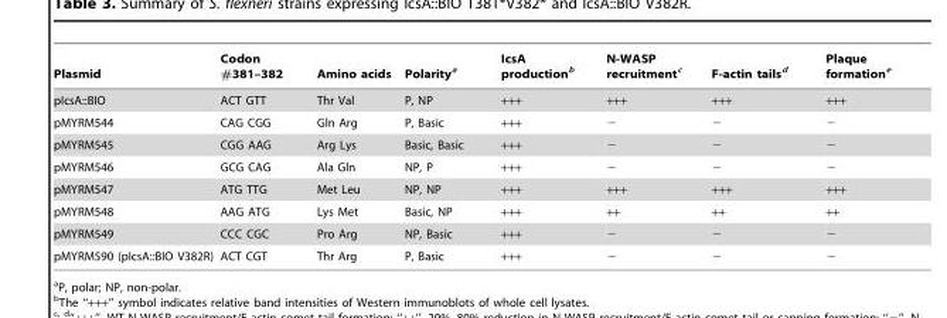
<table><thead><tr><td>Plasmid</td><td>Codon #381–382</td><td>Amino acids</td><td>Polarity<sup>a</sup></td><td>IcsA production<sup>b</sup></td><td>N-WASP recruitment<sup>c</sup></td><td>F-actin tails<sup>d</sup></td><td>Plaque formation<sup>e</sup></td></tr></thead><tbody><tr><td>pIcsA::BIO</td><td>ACT GTT</td><td>Thr Val</td><td>P, NP</td><td>+++</td><td>+++</td><td>+++</td><td>+++</td></tr><tr><td>pMYRM544</td><td>CAG CGG</td><td>Gln Arg</td><td>P, Basic</td><td>+++</td><td>−</td><td>−</td><td>−</td></tr><tr><td>pMYRM545</td><td>CGG AAG</td><td>Arg Lys</td><td>Basic, Basic</td><td>+++</td><td>−</td><td>−</td><td>−</td></tr><tr><td>pMYRM546</td><td>GCG CAG</td><td>Ala Gln</td><td>NP, P</td><td>+++</td><td>−</td><td>−</td><td>−</td></tr><tr><td>pMYRM547</td><td>ATG TTG</td><td>Met Leu</td><td>NP, NP</td><td>+++</td><td>+++</td><td>+++</td><td>+++</td></tr><tr><td>pMYRM548</td><td>AAG ATG</td><td>Lys Met</td><td>Basic, NP</td><td>+++</td><td>++</td><td>++</td><td>++</td></tr><tr><td>pMYRM549</td><td>CCC CGC</td><td>Pro Arg</td><td>NP, Basic</td><td>+++</td><td>−</td><td>−</td><td>−</td></tr><tr><td>pMYRM590 (pIcsA::BIO V382R)</td><td>ACT CGT</td><td>Thr Arg</td><td>P, Basic</td><td>+++</td><td>−</td><td>−</td><td>−</td></tr></tbody></table>